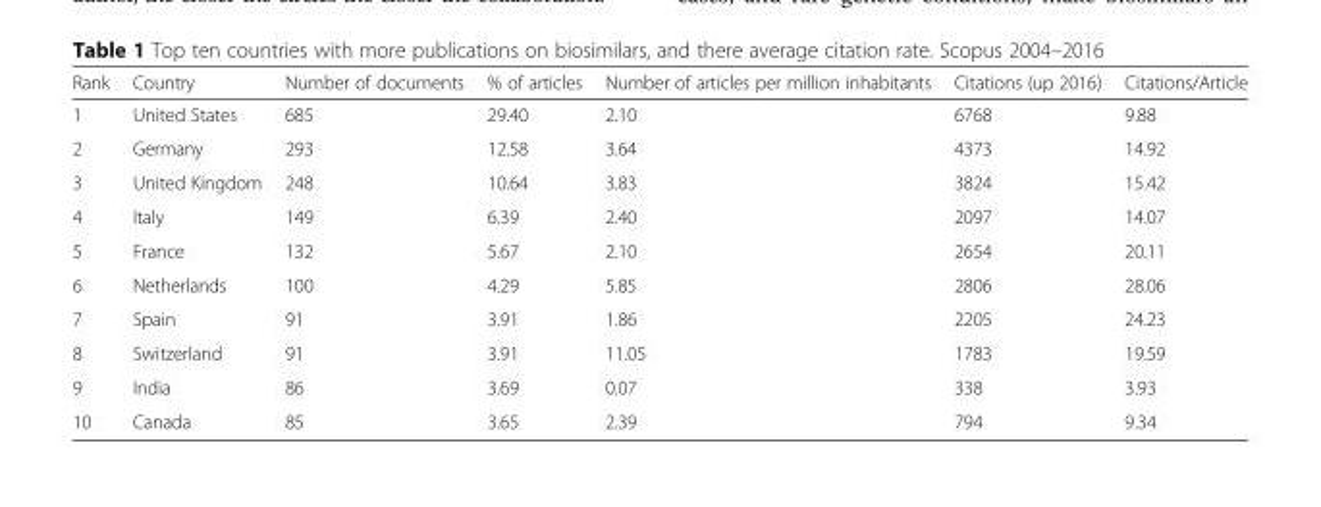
<table><thead><tr><td>Rank</td><td>Country</td><td>Number of documents</td><td>% of articles</td><td>Number of articles per million inhabitants</td><td>Citations (up 2016)</td><td>Citations/Article</td></tr></thead><tbody><tr><td>1</td><td>United States</td><td>685</td><td>29.40</td><td>2.10</td><td>6768</td><td>9.88</td></tr><tr><td>2</td><td>Germany</td><td>293</td><td>12.58</td><td>3.64</td><td>4373</td><td>14.92</td></tr><tr><td>3</td><td>United Kingdom</td><td>248</td><td>10.64</td><td>3.83</td><td>3824</td><td>15.42</td></tr><tr><td>4</td><td>Italy</td><td>149</td><td>6.39</td><td>2.40</td><td>2097</td><td>14.07</td></tr><tr><td>5</td><td>France</td><td>132</td><td>5.67</td><td>2.10</td><td>2654</td><td>20.11</td></tr><tr><td>6</td><td>Netherlands</td><td>100</td><td>4.29</td><td>5.85</td><td>2806</td><td>28.06</td></tr><tr><td>7</td><td>Spain</td><td>91</td><td>3.91</td><td>1.86</td><td>2205</td><td>24.23</td></tr><tr><td>8</td><td>Switzerland</td><td>91</td><td>3.91</td><td>11.05</td><td>1783</td><td>19.59</td></tr><tr><td>9</td><td>India</td><td>86</td><td>3.69</td><td>0.07</td><td>338</td><td>3.93</td></tr><tr><td>10</td><td>Canada</td><td>85</td><td>3.65</td><td>2.39</td><td>794</td><td>9.34</td></tr></tbody></table>